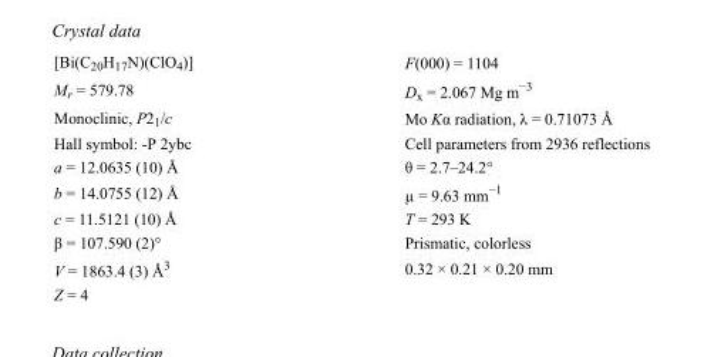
<table><tbody><tr><td>[Bi(C<sub>20</sub>H<sub>17</sub>N)(ClO<sub>4</sub>)]</td><td>F(000) = 1104</td></tr><tr><td>M<sub>r</sub> = 579.78</td><td>D<sub>x</sub> = 2.067 Mg m<sup>−3</sup></td></tr><tr><td>Monoclinic, P2<sub>1</sub>/c</td><td>Mo Kα radiation, λ = 0.71073 Å</td></tr><tr><td>Hall symbol: -P 2ybc</td><td>Cell parameters from 2936 reflections</td></tr><tr><td>a = 12.0635 (10) Å</td><td>θ = 2.7–24.2°</td></tr><tr><td>b = 14.0755 (12) Å</td><td>µ = 9.63 mm<sup>−1</sup></td></tr><tr><td>c = 11.5121 (10) Å</td><td>T = 293 K</td></tr><tr><td>β = 107.590 (2)°</td><td>Prismatic, colorless</td></tr><tr><td>V = 1863.4 (3) Å<sup>3</sup></td><td>0.32 × 0.21 × 0.20 mm</td></tr><tr><td>Z = 4</td><td></td></tr></tbody></table>